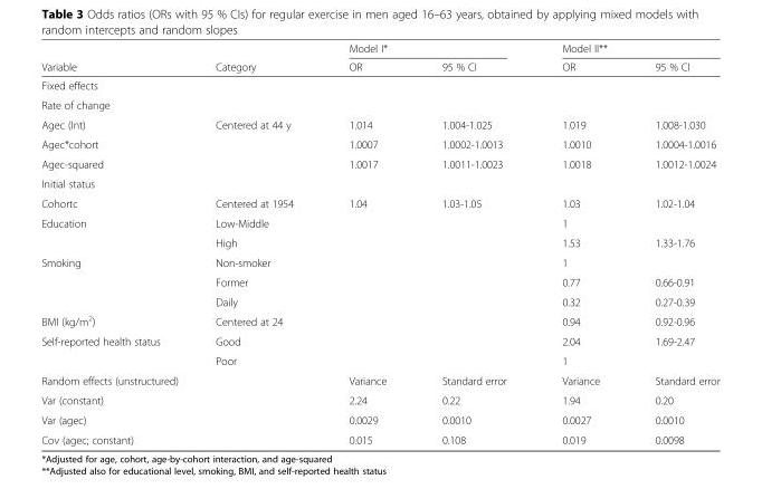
<table><thead><tr><td rowspan="2">Variable</td><td rowspan="2">Category</td><td colspan="2">Model I*</td><td colspan="2">Model II**</td></tr><tr><td>OR</td><td>95 % CI</td><td>OR</td><td>95 % CI</td></tr></thead><tbody><tr><td colspan="6">Fixed effects</td></tr><tr><td colspan="6">Rate of change</td></tr><tr><td>Agec (Int)</td><td>Centered at 44 y</td><td>1.014</td><td>1.004-1.025</td><td>1.019</td><td>1.008-1.030</td></tr><tr><td>Agec*cohort</td><td></td><td>1.0007</td><td>1.0002-1.0013</td><td>1.0010</td><td>1.0004-1.0016</td></tr><tr><td>Agec-squared</td><td></td><td>1.0017</td><td>1.0011-1.0023</td><td>1.0018</td><td>1.0012-1.0024</td></tr><tr><td colspan="6">Initial status</td></tr><tr><td>Cohortc</td><td>Centered at 1954</td><td>1.04</td><td>1.03-1.05</td><td>1.03</td><td>1.02-1.04</td></tr><tr><td rowspan="2">Education</td><td>Low-Middle</td><td></td><td></td><td>1</td><td></td></tr><tr><td>High</td><td></td><td></td><td>1.53</td><td>1.33-1.76</td></tr><tr><td rowspan="3">Smoking</td><td>Non-smoker</td><td></td><td></td><td>1</td><td></td></tr><tr><td>Former</td><td></td><td></td><td>0.77</td><td>0.66-0.91</td></tr><tr><td>Daily</td><td></td><td></td><td>0.32</td><td>0.27-0.39</td></tr><tr><td>BMI (kg/m<sup>2</sup>)</td><td>Centered at 24</td><td></td><td></td><td>0.94</td><td>0.92-0.96</td></tr><tr><td rowspan="2">Self-reported health status</td><td>Good</td><td></td><td></td><td>2.04</td><td>1.69-2.47</td></tr><tr><td>Poor</td><td></td><td></td><td>1</td><td></td></tr><tr><td colspan="2">Random effects (unstructured)</td><td>Variance</td><td>Standard error</td><td>Variance</td><td>Standard error</td></tr><tr><td colspan="2">Var (constant)</td><td>2.24</td><td>0.22</td><td>1.94</td><td>0.20</td></tr><tr><td colspan="2">Var (agec)</td><td>0.0029</td><td>0.0010</td><td>0.0027</td><td>0.0010</td></tr><tr><td colspan="2">Cov (agec; constant)</td><td>0.015</td><td>0.108</td><td>0.019</td><td>0.0098</td></tr></tbody></table>